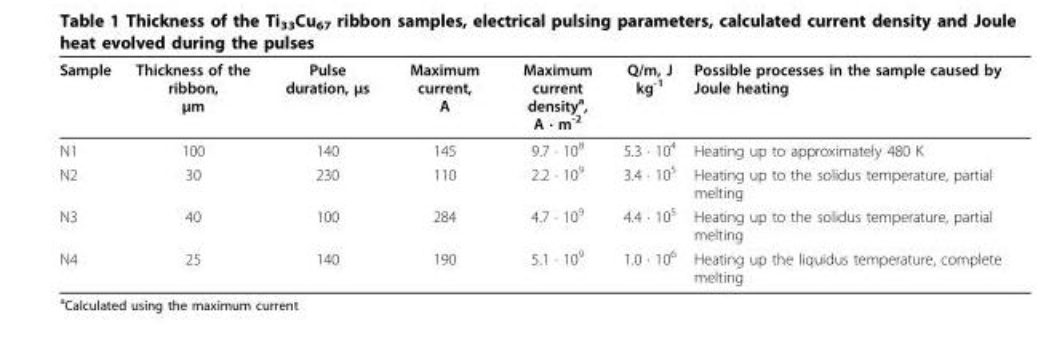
<table><thead><tr><td>Sample</td><td>Thickness of the ribbon, μm</td><td>Pulse duration, μs</td><td>Maximum current, A</td><td>Maximum current density<sup>a</sup>, A · m<sup>-2</sup></td><td>Q/m, J kg<sup>-1</sup></td><td>Possible processes in the sample caused by Joule heating</td></tr></thead><tbody><tr><td>N1</td><td>100</td><td>140</td><td>145</td><td>9.7 · 10<sup>8</sup></td><td>5.3 · 10<sup>4</sup></td><td>Heating up to approximately 480 K</td></tr><tr><td>N2</td><td>30</td><td>230</td><td>110</td><td>2.2 · 10<sup>9</sup></td><td>3.4 · 10<sup>5</sup></td><td>Heating up to the solidus temperature, partial melting</td></tr><tr><td>N3</td><td>40</td><td>100</td><td>284</td><td>4.7 · 10<sup>9</sup></td><td>4.4 · 10<sup>5</sup></td><td>Heating up to the solidus temperature, partial melting</td></tr><tr><td>N4</td><td>25</td><td>140</td><td>190</td><td>5.1 · 10<sup>9</sup></td><td>1.0 · 10<sup>6</sup></td><td>Heating up the liquidus temperature, complete melting</td></tr></tbody></table>